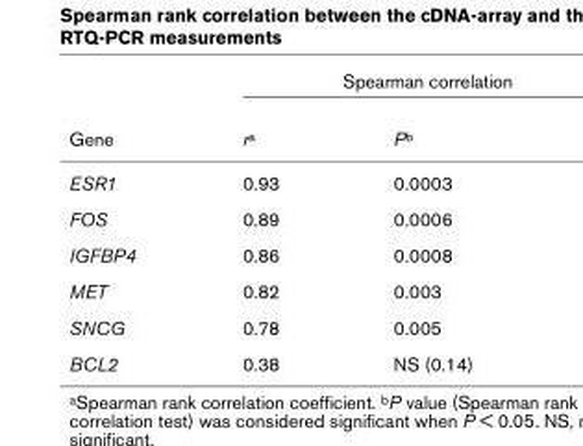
<table><thead><tr><td rowspan="2">Gene</td><td colspan="2">Spearman correlation</td></tr><tr><td>r<sup>a</sup></td><td>P<sup>b</sup></td></tr></thead><tbody><tr><td>ESR1</td><td>0.93</td><td>0.0003</td></tr><tr><td>FOS</td><td>0.89</td><td>0.0006</td></tr><tr><td>IGFBP4</td><td>0.86</td><td>0.0008</td></tr><tr><td>MET</td><td>0.82</td><td>0.003</td></tr><tr><td>SNCG</td><td>0.78</td><td>0.005</td></tr><tr><td>BCL2</td><td>0.38</td><td>NS (0.14)</td></tr></tbody></table>